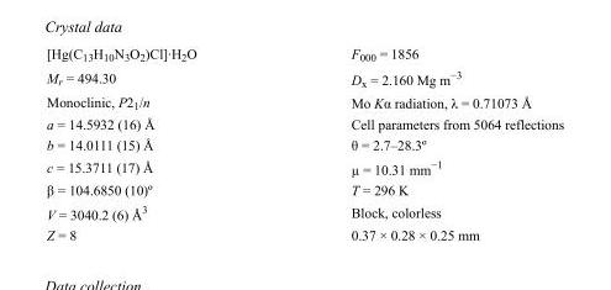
<table><tbody><tr><td>[Hg(C<sub>13</sub>H<sub>10</sub>N<sub>3</sub>O<sub>2</sub>)Cl]·H<sub>2</sub>O</td><td>F000 = 1856</td></tr><tr><td>M<sub>r</sub> = 494.30</td><td>D<sub>x</sub> = 2.160 Mg m<sup>−3</sup></td></tr><tr><td>Monoclinic, P2<sub>1</sub>/n</td><td>Mo Kα radiation, λ = 0.71073 Å</td></tr><tr><td>a = 14.5932 (16) Å</td><td>Cell parameters from 5064 reflections</td></tr><tr><td>b = 14.0111 (15) Å</td><td>θ = 2.7–28.3º</td></tr><tr><td>c = 15.3711 (17) Å</td><td>µ = 10.31 mm<sup>−1</sup></td></tr><tr><td>β = 104.6850 (10)º</td><td>T = 296 K</td></tr><tr><td>V = 3040.2 (6) Å<sup>3</sup></td><td>Block, colorless</td></tr><tr><td>Z = 8</td><td>0.37 × 0.28 × 0.25 mm</td></tr></tbody></table>